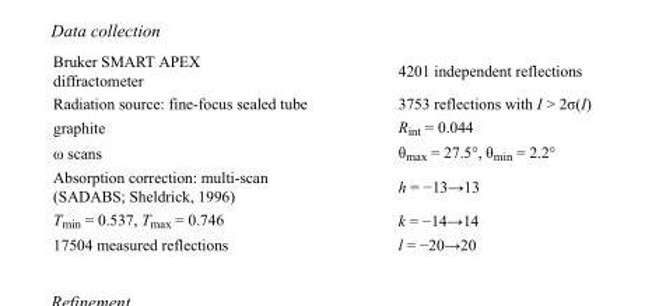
<table><tbody><tr><td>Bruker SMART APEX diffractometer</td><td>4201 independent reflections</td></tr><tr><td>Radiation source: fine-focus sealed tube</td><td>3753 reflections with I &gt; 2σ(I)</td></tr><tr><td>graphite</td><td>R<sub>int</sub> = 0.044</td></tr><tr><td>ω scans</td><td>θ<sub>max</sub> = 27.5°, θ<sub>min</sub> = 2.2°</td></tr><tr><td>Absorption correction: multi-scan (SADABS; Sheldrick, 1996)</td><td>h = −13→13</td></tr><tr><td>T<sub>min</sub> = 0.537, T<sub>max</sub> = 0.746</td><td>k = −14→14</td></tr><tr><td>17504 measured reflections</td><td>l = −20→20</td></tr></tbody></table>